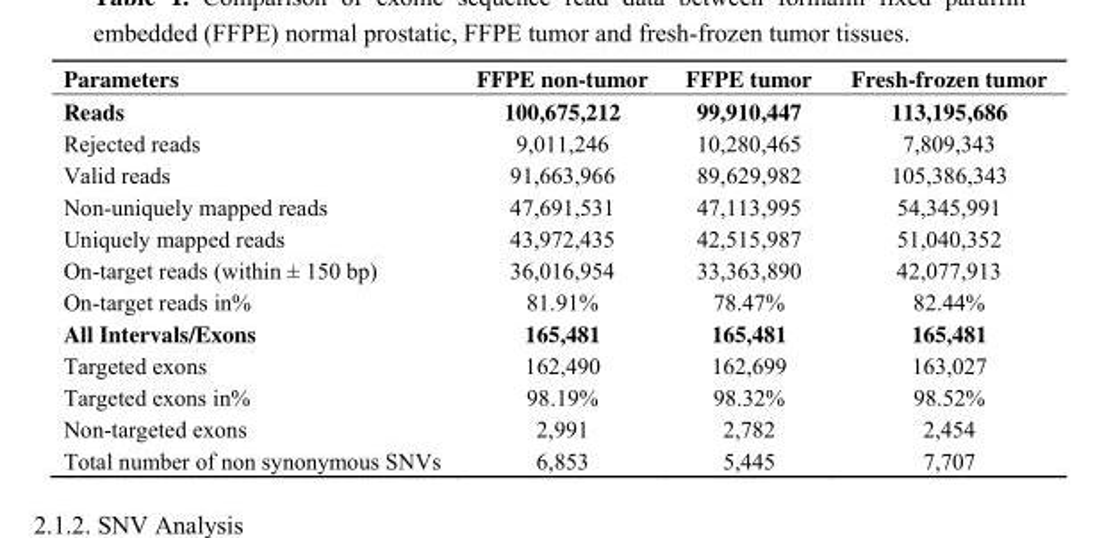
<table><thead><tr><td>Parameters</td><td>FFPE non-tumor</td><td>FFPE tumor</td><td>Fresh-frozen tumor</td></tr></thead><tbody><tr><td>Reads</td><td>100,675,212</td><td>99,910,447</td><td>113,195,686</td></tr><tr><td>Rejected reads</td><td>9,011,246</td><td>10,280,465</td><td>7,809,343</td></tr><tr><td>Valid reads</td><td>91,663,966</td><td>89,629,982</td><td>105,386,343</td></tr><tr><td>Non-uniquely mapped reads</td><td>47,691,531</td><td>47,113,995</td><td>54,345,991</td></tr><tr><td>Uniquely mapped reads</td><td>43,972,435</td><td>42,515,987</td><td>51,040,352</td></tr><tr><td>On-target reads (within ± 150 bp)</td><td>36,016,954</td><td>33,363,890</td><td>42,077,913</td></tr><tr><td>On-target reads in%</td><td>81.91%</td><td>78.47%</td><td>82.44%</td></tr><tr><td>All Intervals/Exons</td><td>165,481</td><td>165,481</td><td>165,481</td></tr><tr><td>Targeted exons</td><td>162,490</td><td>162,699</td><td>163,027</td></tr><tr><td>Targeted exons in%</td><td>98.19%</td><td>98.32%</td><td>98.52%</td></tr><tr><td>Non-targeted exons</td><td>2,991</td><td>2,782</td><td>2,454</td></tr><tr><td>Total number of non synonymous SNVs</td><td>6,853</td><td>5,445</td><td>7,707</td></tr></tbody></table>